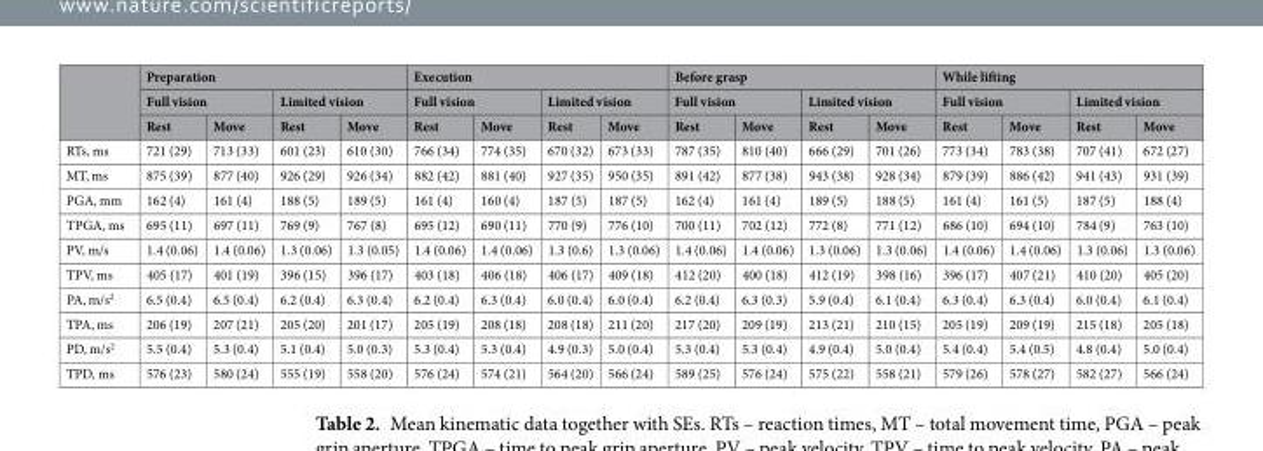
<table><thead><tr><td rowspan="3"></td><td colspan="4">Preparation</td><td colspan="4">Execution</td><td colspan="4">Before grasp</td><td colspan="4">While lifting</td></tr><tr><td colspan="2">Full vision</td><td colspan="2">Limited vision</td><td colspan="2">Full vision</td><td colspan="2">Limited vision</td><td colspan="2">Full vision</td><td colspan="2">Limited vision</td><td colspan="2">Full vision</td><td colspan="2">Limited vision</td></tr><tr><td>Rest</td><td>Move</td><td>Rest</td><td>Move</td><td>Rest</td><td>Move</td><td>Rest</td><td>Move</td><td>Rest</td><td>Move</td><td>Rest</td><td>Move</td><td>Rest</td><td>Move</td><td>Rest</td><td>Move</td></tr></thead><tbody><tr><td>RTs, ms</td><td>721 (29)</td><td>713 (33)</td><td>601 (23)</td><td>610 (30)</td><td>766 (34)</td><td>774 (35)</td><td>670 (32)</td><td>673 (33)</td><td>787 (35)</td><td>810 (40)</td><td>666 (29)</td><td>701 (26)</td><td>773 (34)</td><td>783 (38)</td><td>707 (41)</td><td>672 (27)</td></tr><tr><td>MT, ms</td><td>875 (39)</td><td>877 (40)</td><td>926 (29)</td><td>926 (34)</td><td>882 (42)</td><td>881 (40)</td><td>927 (35)</td><td>950 (35)</td><td>891 (42)</td><td>877 (38)</td><td>943 (38)</td><td>928 (34)</td><td>879 (39)</td><td>886 (42)</td><td>941 (43)</td><td>931 (39)</td></tr><tr><td>PGA, mm</td><td>162 (4)</td><td>161 (4)</td><td>188 (5)</td><td>189 (5)</td><td>161 (4)</td><td>160 (4)</td><td>187 (5)</td><td>187 (5)</td><td>162 (4)</td><td>161 (4)</td><td>189 (5)</td><td>188 (5)</td><td>161 (4)</td><td>161 (5)</td><td>187 (5)</td><td>188 (4)</td></tr><tr><td>TPGA, ms</td><td>695 (11)</td><td>697 (11)</td><td>769 (9)</td><td>767 (8)</td><td>695 (12)</td><td>690 (11)</td><td>770 (9)</td><td>776 (10)</td><td>700 (11)</td><td>702 (12)</td><td>772 (8)</td><td>771 (12)</td><td>686 (10)</td><td>694 (10)</td><td>784 (9)</td><td>763 (10)</td></tr><tr><td>PV, m/s</td><td>1.4 (0.06)</td><td>1.4 (0.06)</td><td>1.3 (0.06)</td><td>1.3 (0.05)</td><td>1.4 (0.06)</td><td>1.4 (0.06)</td><td>1.3 (0.6)</td><td>1.3 (0.06)</td><td>1.4 (0.06)</td><td>1.4 (0.06)</td><td>1.3 (0.06)</td><td>1.3 (0.06)</td><td>1.4 (0.06)</td><td>1.4 (0.06)</td><td>1.3 (0.06)</td><td>1.3 (0.06)</td></tr><tr><td>TPV, ms</td><td>405 (17)</td><td>401 (19)</td><td>396 (15)</td><td>396 (17)</td><td>403 (18)</td><td>406 (18)</td><td>406 (17)</td><td>409 (18)</td><td>412 (20)</td><td>400 (18)</td><td>412 (19)</td><td>398 (16)</td><td>396 (17)</td><td>407 (21)</td><td>410 (20)</td><td>405 (20)</td></tr><tr><td>PA, m/s<sup>2</sup></td><td>6.5 (0.4)</td><td>6.5 (0.4)</td><td>6.2 (0.4)</td><td>6.3 (0.4)</td><td>6.2 (0.4)</td><td>6.3 (0.4)</td><td>6.0 (0.4)</td><td>6.0 (0.4)</td><td>6.2 (0.4)</td><td>6.3 (0.3)</td><td>5.9 (0.4)</td><td>6.1 (0.4)</td><td>6.3 (0.4)</td><td>6.3 (0.4)</td><td>6.0 (0.4)</td><td>6.1 (0.4)</td></tr><tr><td>TPA, ms</td><td>206 (19)</td><td>207 (21)</td><td>205 (20)</td><td>201 (17)</td><td>205 (19)</td><td>208 (18)</td><td>208 (18)</td><td>211 (20)</td><td>217 (20)</td><td>209 (19)</td><td>213 (21)</td><td>210 (15)</td><td>205 (19)</td><td>209 (19)</td><td>215 (18)</td><td>205 (18)</td></tr><tr><td>PD, m/s<sup>2</sup></td><td>5.5 (0.4)</td><td>5.3 (0.4)</td><td>5.1 (0.4)</td><td>5.0 (0.3)</td><td>5.3 (0.4)</td><td>5.3 (0.4)</td><td>4.9 (0.3)</td><td>5.0 (0.4)</td><td>5.3 (0.4)</td><td>5.3 (0.4)</td><td>4.9 (0.4)</td><td>5.0 (0.4)</td><td>5.4 (0.4)</td><td>5.4 (0.5)</td><td>4.8 (0.4)</td><td>5.0 (0.4)</td></tr><tr><td>TPD, ms</td><td>576 (23)</td><td>580 (24)</td><td>555 (19)</td><td>558 (20)</td><td>576 (24)</td><td>574 (21)</td><td>564 (20)</td><td>566 (24)</td><td>589 (25)</td><td>576 (24)</td><td>575 (22)</td><td>558 (21)</td><td>579 (26)</td><td>578 (27)</td><td>582 (27)</td><td>566 (24)</td></tr></tbody></table>